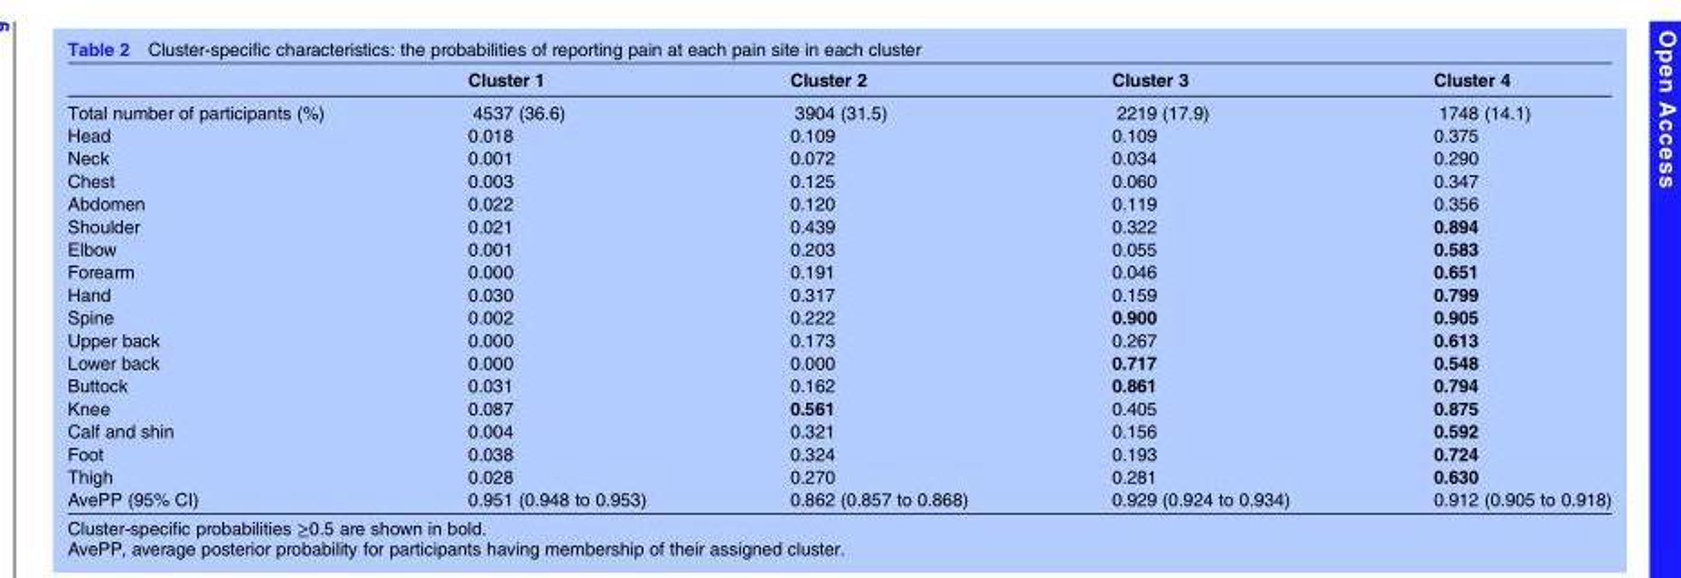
<table><thead><tr><td></td><td>Cluster 1</td><td>Cluster 2</td><td>Cluster 3</td><td>Cluster 4</td></tr></thead><tbody><tr><td>Total number of participants (%)</td><td>4537 (36.6)</td><td>3904 (31.5)</td><td>2219 (17.9)</td><td>1748 (14.1)</td></tr><tr><td>Head</td><td>0.018</td><td>0.109</td><td>0.109</td><td>0.375</td></tr><tr><td>Neck</td><td>0.001</td><td>0.072</td><td>0.034</td><td>0.290</td></tr><tr><td>Chest</td><td>0.003</td><td>0.125</td><td>0.060</td><td>0.347</td></tr><tr><td>Abdomen</td><td>0.022</td><td>0.120</td><td>0.119</td><td>0.356</td></tr><tr><td>Shoulder</td><td>0.021</td><td>0.439</td><td>0.322</td><td>0.894</td></tr><tr><td>Elbow</td><td>0.001</td><td>0.203</td><td>0.055</td><td>0.583</td></tr><tr><td>Forearm</td><td>0.000</td><td>0.191</td><td>0.046</td><td>0.651</td></tr><tr><td>Hand</td><td>0.030</td><td>0.317</td><td>0.159</td><td>0.799</td></tr><tr><td>Spine</td><td>0.002</td><td>0.222</td><td>0.900</td><td>0.905</td></tr><tr><td>Upper back</td><td>0.000</td><td>0.173</td><td>0.267</td><td>0.613</td></tr><tr><td>Lower back</td><td>0.000</td><td>0.000</td><td>0.717</td><td>0.548</td></tr><tr><td>Buttock</td><td>0.031</td><td>0.162</td><td>0.861</td><td>0.794</td></tr><tr><td>Knee</td><td>0.087</td><td>0.561</td><td>0.405</td><td>0.875</td></tr><tr><td>Calf and shin</td><td>0.004</td><td>0.321</td><td>0.156</td><td>0.592</td></tr><tr><td>Foot</td><td>0.038</td><td>0.324</td><td>0.193</td><td>0.724</td></tr><tr><td>Thigh</td><td>0.028</td><td>0.270</td><td>0.281</td><td>0.630</td></tr><tr><td>AvePP (95% CI)</td><td>0.951 (0.948 to 0.953)</td><td>0.862 (0.857 to 0.868)</td><td>0.929 (0.924 to 0.934)</td><td>0.912 (0.905 to 0.918)</td></tr></tbody></table>